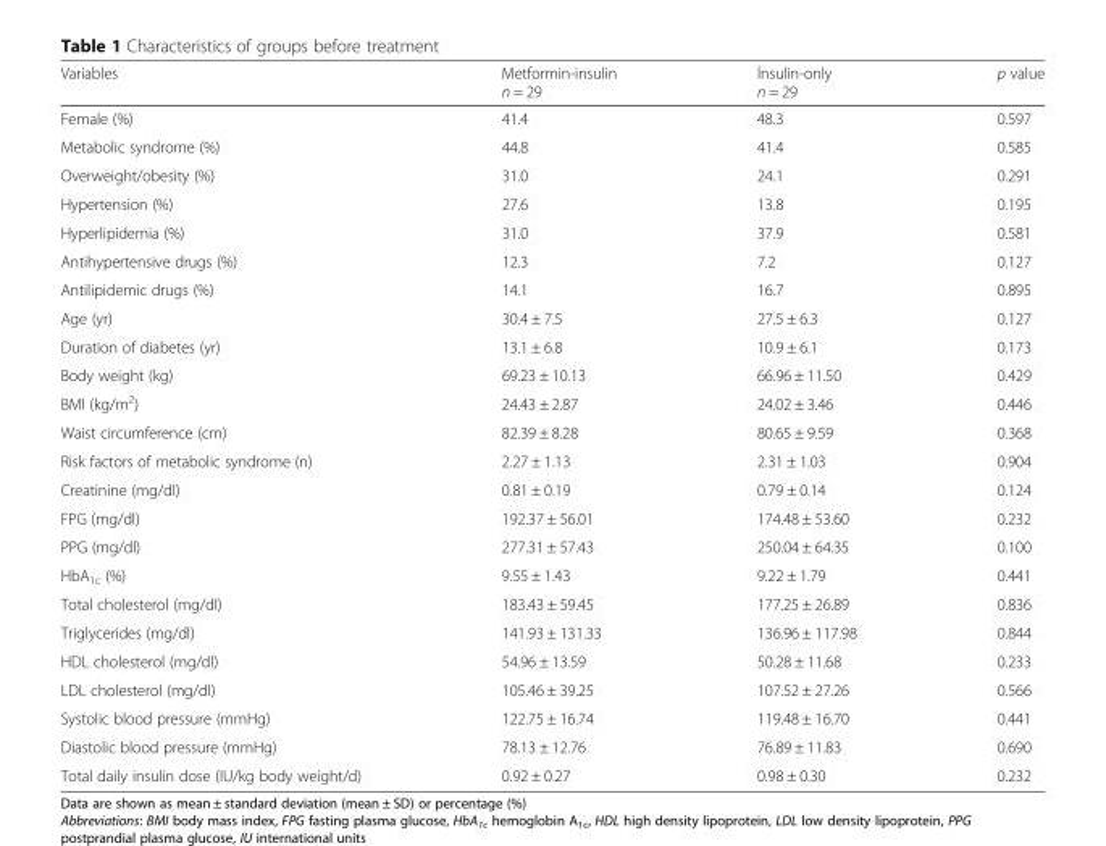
<table><thead><tr><td>Variables</td><td>Metformin-insulin n = 29</td><td>İnsulin-only n = 29</td><td>p value</td></tr></thead><tbody><tr><td>Female (%)</td><td>41.4</td><td>48.3</td><td>0.597</td></tr><tr><td>Metabolic syndrome (%)</td><td>44.8</td><td>41.4</td><td>0.585</td></tr><tr><td>Overweight/obesity (%)</td><td>31.0</td><td>24.1</td><td>0.291</td></tr><tr><td>Hypertension (%)</td><td>27.6</td><td>13.8</td><td>0.195</td></tr><tr><td>Hyperlipidemia (%)</td><td>31.0</td><td>37.9</td><td>0.581</td></tr><tr><td>Antihypertensive drugs (%)</td><td>12.3</td><td>7.2</td><td>0.127</td></tr><tr><td>Antilipidemic drugs (%)</td><td>14.1</td><td>16.7</td><td>0.895</td></tr><tr><td>Age (yr)</td><td>30.4 ± 7.5</td><td>27.5 ± 6.3</td><td>0.127</td></tr><tr><td>Duration of diabetes (yr)</td><td>13.1 ± 6.8</td><td>10.9 ± 6.1</td><td>0.173</td></tr><tr><td>Body weight (kg)</td><td>69.23 ± 10.13</td><td>66.96 ± 11.50</td><td>0.429</td></tr><tr><td>BMI (kg/m<sup>2</sup>)</td><td>24.43 ± 2.87</td><td>24.02 ± 3.46</td><td>0.446</td></tr><tr><td>Waist circumference (cm)</td><td>82.39 ± 8.28</td><td>80.65 ± 9.59</td><td>0.368</td></tr><tr><td>Risk factors of metabolic syndrome (n)</td><td>2.27 ± 1.13</td><td>2.31 ± 1.03</td><td>0.904</td></tr><tr><td>Creatinine (mg/dl)</td><td>0.81 ± 0.19</td><td>0.79 ± 0.14</td><td>0.124</td></tr><tr><td>FPG (mg/dl)</td><td>192.37 ± 56.01</td><td>174.48 ± 53.60</td><td>0.232</td></tr><tr><td>PPG (mg/dl)</td><td>277.31 ± 57.43</td><td>250.04 ± 64.35</td><td>0.100</td></tr><tr><td>HbA<sub>1c</sub> (%)</td><td>9.55 ± 1.43</td><td>9.22 ± 1.79</td><td>0.441</td></tr><tr><td>Total cholesterol (mg/dl)</td><td>183.43 ± 59.45</td><td>177.25 ± 26.89</td><td>0.836</td></tr><tr><td>Triglycerides (mg/dl)</td><td>141.93 ± 131.33</td><td>136.96 ± 117.98</td><td>0.844</td></tr><tr><td>HDL cholesterol (mg/dl)</td><td>54.96 ± 13.59</td><td>50.28 ± 11.68</td><td>0.233</td></tr><tr><td>LDL cholesterol (mg/dl)</td><td>105.46 ± 39.25</td><td>107.52 ± 27.26</td><td>0.566</td></tr><tr><td>Systolic blood pressure (mmHg)</td><td>122.75 ± 16.74</td><td>119.48 ± 16.70</td><td>0.441</td></tr><tr><td>Diastolic blood pressure (mmHg)</td><td>78.13 ± 12.76</td><td>76.89 ± 11.83</td><td>0.690</td></tr><tr><td>Total daily insulin dose (IU/kg body weight/d)</td><td>0.92 ± 0.27</td><td>0.98 ± 0.30</td><td>0.232</td></tr></tbody></table>